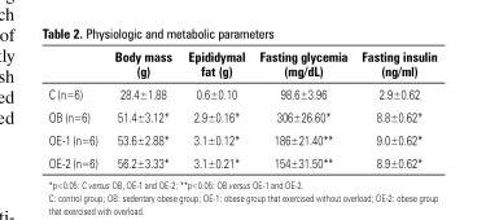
<table><thead><tr><td></td><td>Body mass (g)</td><td>Epididymal fat (g)</td><td>Fasting glycemia (mg/dL)</td><td>Fasting insulin (ng/ml)</td></tr></thead><tbody><tr><td>C (n=6)</td><td>28.4±1.88</td><td>0.6±0.10</td><td>98.6±3.96</td><td>2.9±0.62</td></tr><tr><td>OB (n=6)</td><td>51.4±3.12*</td><td>2.9±0.16*</td><td>306±26.60*</td><td>8.8±0.62*</td></tr><tr><td>OE-1 (n=6)</td><td>53.6±2.88*</td><td>3.1±0.12*</td><td>186±21.40**</td><td>9.0±0.62*</td></tr><tr><td>OE-2 (n=6)</td><td>56.2±3.33*</td><td>3.1±0.21*</td><td>154±31.50**</td><td>8.9±0.62*</td></tr></tbody></table>